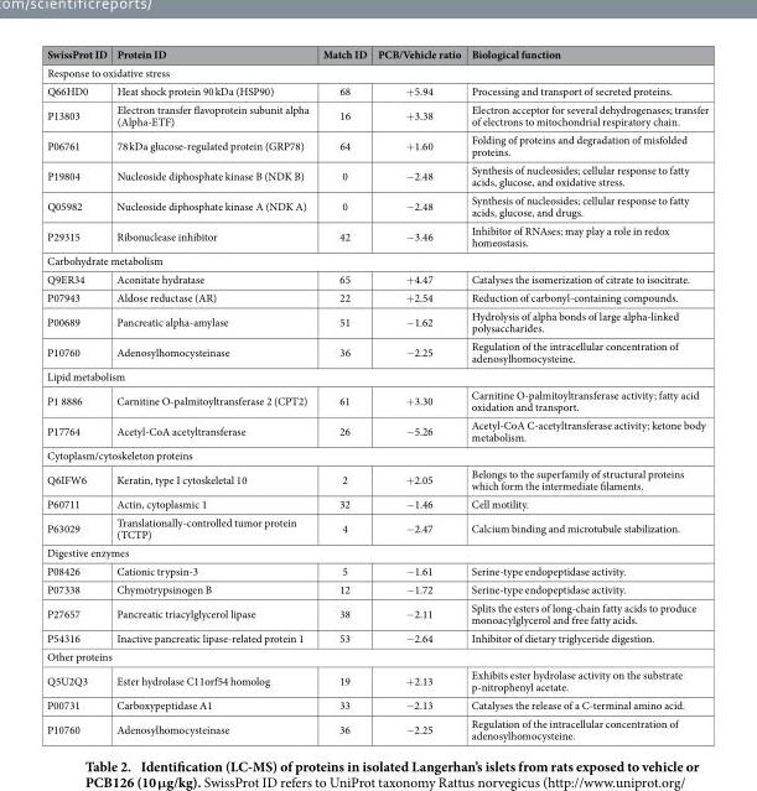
<table><thead><tr><td>SwissProt ID</td><td>Protein ID</td><td>Match ID</td><td>PCB/Vehicle ratio</td><td>Biological function</td></tr></thead><tbody><tr><td colspan="5">Response to oxidative stress</td></tr><tr><td>Q66HD0</td><td>Heat shock protein 90 kDa (HSP90)</td><td>68</td><td>+ 5.94</td><td>Processing and transport of secreted proteins.</td></tr><tr><td>P13803</td><td>Electron transfer flavoprotein subunit alpha (Alpha-ETF)</td><td>16</td><td>+ 3.38</td><td>Electron acceptor for several dehydrogenases; transfer of electrons to mitochondrial respiratory chain.</td></tr><tr><td>P06761</td><td>78 kDa glucose-regulated protein (GRP78)</td><td>64</td><td>+ 1.60</td><td>Folding of proteins and degradation of misfolded proteins.</td></tr><tr><td>P19804</td><td>Nucleoside diphosphate kinase B (NDK B)</td><td>0</td><td>− 2.48</td><td>Synthesis of nucleosides; cellular response to fatty acids, glucose, and oxidative stress.</td></tr><tr><td>Q05982</td><td>Nucleoside diphosphate kinase A (NDK A)</td><td>0</td><td>− 2.48</td><td>Synthesis of nucleosides; cellular response to fatty acids, glucose, and drugs.</td></tr><tr><td>P29315</td><td>Ribonuclease inhibitor</td><td>42</td><td>− 3.46</td><td>Inhibitor of RNAses; may play a role in redox homeostasis.</td></tr><tr><td colspan="5">Carbohydrate metabolism</td></tr><tr><td>Q9ER34</td><td>Aconitate hydratase</td><td>65</td><td>+ 4.47</td><td>Catalyses the isomerization of citrate to isocitrate.</td></tr><tr><td>P07943</td><td>Aldose reductase (AR)</td><td>22</td><td>+ 2.54</td><td>Reduction of carbonyl-containing compounds.</td></tr><tr><td>P00689</td><td>Pancreatic alpha-amylase</td><td>51</td><td>− 1.62</td><td>Hydrolysis of alpha bonds of large alpha-linked polysaccharides.</td></tr><tr><td>P10760</td><td>Adenosylhomocysteinase</td><td>36</td><td>− 2.25</td><td>Regulation of the intracellular concentration of adenosylhomocysteine.</td></tr><tr><td colspan="5">Lipid metabolism</td></tr><tr><td>P1 8886</td><td>Carnitine O-palmitoyltransferase 2 (CPT2)</td><td>61</td><td>+ 3.30</td><td>Carnitine O-palmitoyltransferase activity; fatty acid oxidation and transport.</td></tr><tr><td>P17764</td><td>Acetyl-CoA acetyltransferase</td><td>26</td><td>− 5.26</td><td>Acetyl-CoA C-acetyltransferase activity; ketone body metabolism.</td></tr><tr><td colspan="5">Cytoplasm/cytoskeleton proteins</td></tr><tr><td>Q6IFW6</td><td>Keratin, type I cytoskeletal 10</td><td>2</td><td>+ 2.05</td><td>Belongs to the superfamily of structural proteins which form the intermediate filaments.</td></tr><tr><td>P60711</td><td>Actin, cytoplasmic 1</td><td>32</td><td>− 1.46</td><td>Cell motility.</td></tr><tr><td>P63029</td><td>Translationally-controlled tumor protein (TCTP)</td><td>4</td><td>− 2.47</td><td>Calcium binding and microtubule stabilization.</td></tr><tr><td colspan="5">Digestive enzymes</td></tr><tr><td>P08426</td><td>Cationic trypsin-3</td><td>5</td><td>− 1.61</td><td>Serine-type endopeptidase activity.</td></tr><tr><td>P07338</td><td>Chymotrypsinogen B</td><td>12</td><td>− 1.72</td><td>Serine-type endopeptidase activity.</td></tr><tr><td>P27657</td><td>Pancreatic triacylglycerol lipase</td><td>38</td><td>− 2.11</td><td>Splits the esters of long-chain fatty acids to produce monoacylglycerol and free fatty acids.</td></tr><tr><td>P54316</td><td>Inactive pancreatic lipase-related protein 1</td><td>53</td><td>− 2.64</td><td>Inhibitor of dietary triglyceride digestion.</td></tr><tr><td colspan="5">Other proteins</td></tr><tr><td>Q5U2Q3</td><td>Ester hydrolase C11orf54 homolog</td><td>19</td><td>+ 2.13</td><td>Exhibits ester hydrolase activity on the substrate p-nitrophenyl acetate.</td></tr><tr><td>P00731</td><td>Carboxypeptidase A1</td><td>33</td><td>− 2.13</td><td>Catalyses the release of a C-terminal amino acid.</td></tr><tr><td>P10760</td><td>Adenosylhomocysteinase</td><td>36</td><td>− 2.25</td><td>Regulation of the intracellular concentration of adenosylhomocysteine.</td></tr></tbody></table>